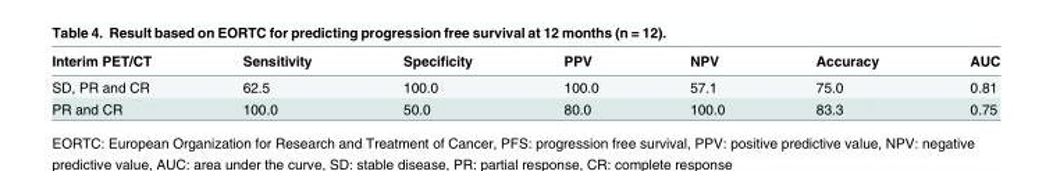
<table><thead><tr><td>Interim PET/CT</td><td>Sensitivity</td><td>Specificity</td><td>PPV</td><td>NPV</td><td>Accuracy</td><td>AUC</td></tr></thead><tbody><tr><td>SD, PR and CR</td><td>62.5</td><td>100.0</td><td>100.0</td><td>57.1</td><td>75.0</td><td>0.81</td></tr><tr><td>PR and CR</td><td>100.0</td><td>50.0</td><td>80.0</td><td>100.0</td><td>83.3</td><td>0.75</td></tr></tbody></table>